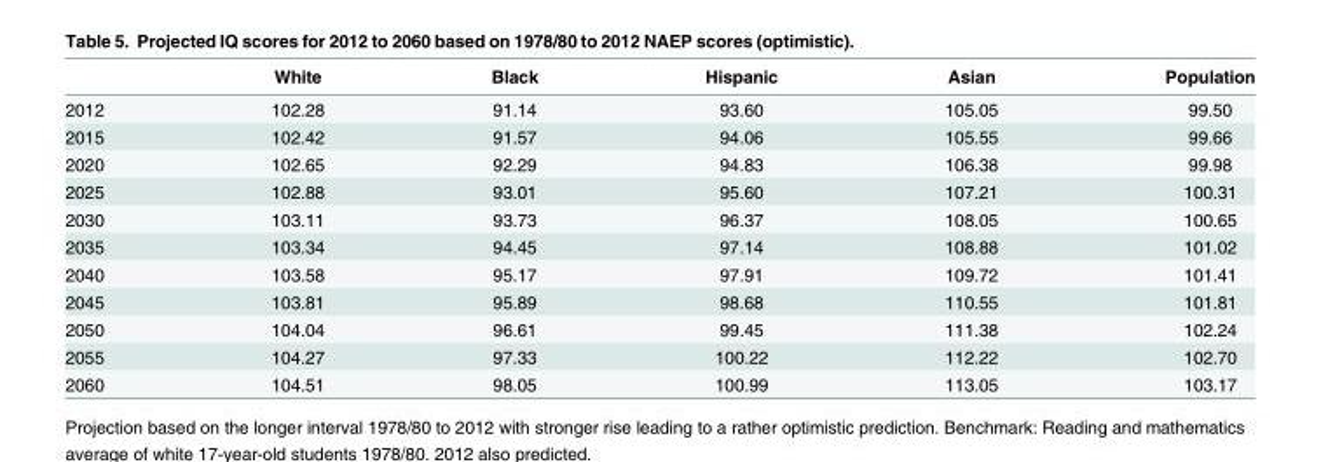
<table><thead><tr><td></td><td>White</td><td>Black</td><td>Hispanic</td><td>Asian</td><td>Population</td></tr></thead><tbody><tr><td>2012</td><td>102.28</td><td>91.14</td><td>93.60</td><td>105.05</td><td>99.50</td></tr><tr><td>2015</td><td>102.42</td><td>91.57</td><td>94.06</td><td>105.55</td><td>99.66</td></tr><tr><td>2020</td><td>102.65</td><td>92.29</td><td>94.83</td><td>106.38</td><td>99.98</td></tr><tr><td>2025</td><td>102.88</td><td>93.01</td><td>95.60</td><td>107.21</td><td>100.31</td></tr><tr><td>2030</td><td>103.11</td><td>93.73</td><td>96.37</td><td>108.05</td><td>100.65</td></tr><tr><td>2035</td><td>103.34</td><td>94.45</td><td>97.14</td><td>108.88</td><td>101.02</td></tr><tr><td>2040</td><td>103.58</td><td>95.17</td><td>97.91</td><td>109.72</td><td>101.41</td></tr><tr><td>2045</td><td>103.81</td><td>95.89</td><td>98.68</td><td>110.55</td><td>101.81</td></tr><tr><td>2050</td><td>104.04</td><td>96.61</td><td>99.45</td><td>111.38</td><td>102.24</td></tr><tr><td>2055</td><td>104.27</td><td>97.33</td><td>100.22</td><td>112.22</td><td>102.70</td></tr><tr><td>2060</td><td>104.51</td><td>98.05</td><td>100.99</td><td>113.05</td><td>103.17</td></tr></tbody></table>